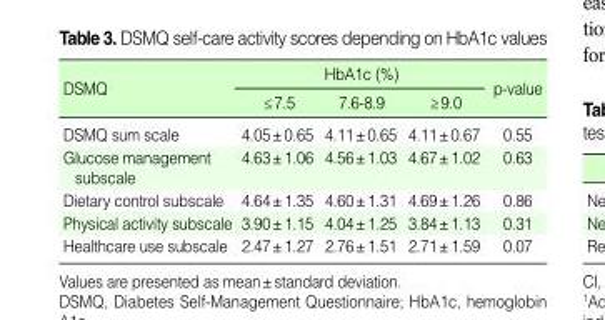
<table><thead><tr><td rowspan="2">DSMQ</td><td colspan="3">HbA1c (%)</td><td rowspan="2">p-value</td></tr><tr><td>≤7.5</td><td>7.6-8.9</td><td>≥9.0</td></tr></thead><tbody><tr><td>DSMQ sum scale</td><td>4.05±0.65</td><td>4.11±0.65</td><td>4.11±0.67</td><td>0.55</td></tr><tr><td>Glucose management subscale</td><td>4.63±1.06</td><td>4.56±1.03</td><td>4.67±1.02</td><td>0.63</td></tr><tr><td>Dietary control subscale</td><td>4.64±1.35</td><td>4.60±1.31</td><td>4.69±1.26</td><td>0.86</td></tr><tr><td>Physical activity subscale</td><td>3.90±1.15</td><td>4.04±1.25</td><td>3.84±1.13</td><td>0.31</td></tr><tr><td>Healthcare use subscale</td><td>2.47±1.27</td><td>2.76±1.51</td><td>2.71±1.59</td><td>0.07</td></tr></tbody></table>